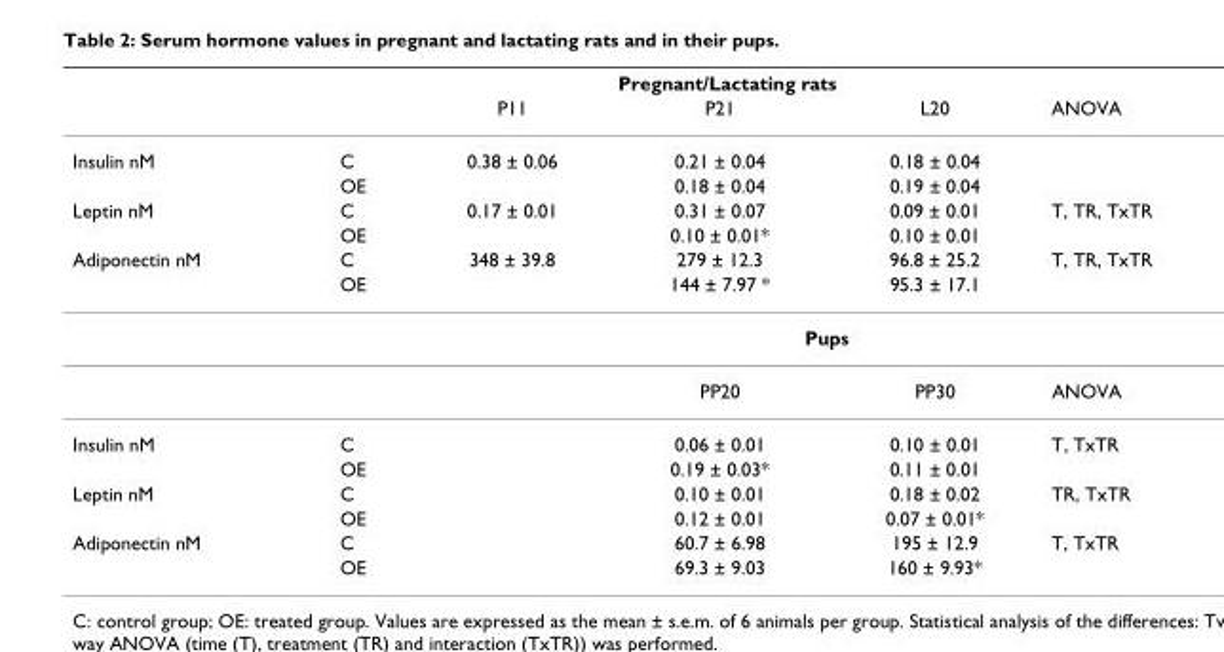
<table><thead><tr><td rowspan="2"></td><td rowspan="2"></td><td colspan="3">Pregnant/Lactating rats</td><td rowspan="2">ANOVA</td></tr><tr><td>P11</td><td>P21</td><td>L20</td></tr></thead><tbody><tr><td rowspan="2">Insulin nM</td><td>C</td><td>0.38 ± 0.06</td><td>0.21 ± 0.04</td><td>0.18 ± 0.04</td><td></td></tr><tr><td>OE</td><td></td><td>0.18 ± 0.04</td><td>0.19 ± 0.04</td><td></td></tr><tr><td rowspan="2">Leptin nM</td><td>C</td><td>0.17 ± 0.01</td><td>0.31 ± 0.07</td><td>0.09 ± 0.01</td><td>T, TR, TxTR</td></tr><tr><td>OE</td><td></td><td>0.10 ± 0.01*</td><td>0.10 ± 0.01</td><td></td></tr><tr><td rowspan="4">Adiponectin nM</td><td>C</td><td>348 ± 39.8</td><td>279 ± 12.3</td><td>96.8 ± 25.2</td><td>T, TR, TxTR</td></tr><tr><td>OE</td><td></td><td>144 ± 7.97 *</td><td>95.3 ± 17.1</td><td></td></tr><tr><td></td><td></td><td colspan="2">Pups</td><td></td></tr><tr><td></td><td></td><td>PP20</td><td>PP30</td><td>ANOVA</td></tr><tr><td rowspan="2">Insulin nM</td><td>C</td><td></td><td>0.06 ± 0.01</td><td>0.10 ± 0.01</td><td>T, TxTR</td></tr><tr><td>OE</td><td></td><td>0.19 ± 0.03*</td><td>0.11 ± 0.01</td><td></td></tr><tr><td rowspan="2">Leptin nM</td><td>C</td><td></td><td>0.10 ± 0.01</td><td>0.18 ± 0.02</td><td>TR, TxTR</td></tr><tr><td>OE</td><td></td><td>0.12 ± 0.01</td><td>0.07 ± 0.01*</td><td></td></tr><tr><td rowspan="2">Adiponectin nM</td><td>C</td><td></td><td>60.7 ± 6.98</td><td>195 ± 12.9</td><td>T, TxTR</td></tr><tr><td>OE</td><td></td><td>69.3 ± 9.03</td><td>160 ± 9.93*</td><td></td></tr></tbody></table>